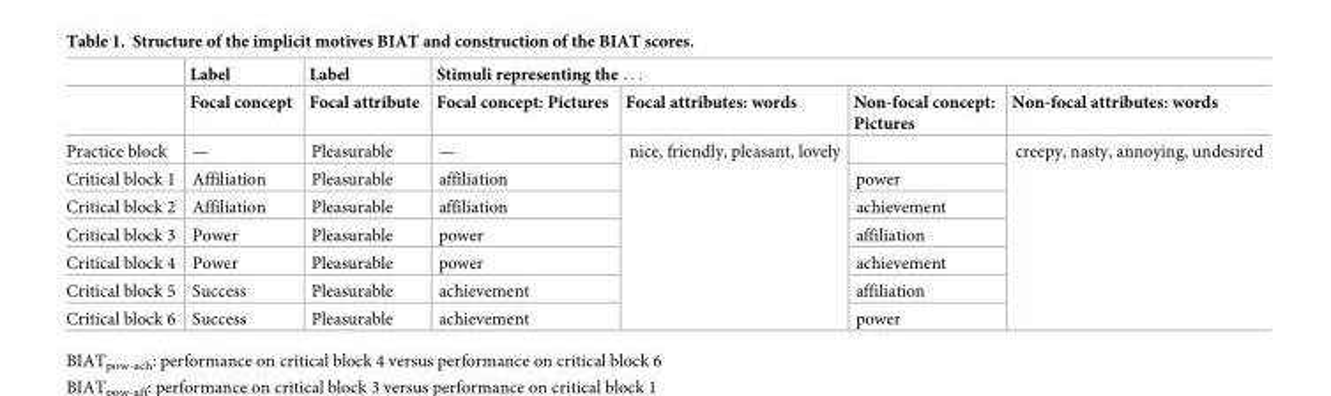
<table><thead><tr><td rowspan="2"></td><td rowspan="2">Label Focal concept</td><td rowspan="2">Label Focal attribute</td><td colspan="4">Stimuli representing the . . .</td></tr><tr><td>Focal concept: Pictures</td><td>Focal attributes: words</td><td>Non-focal concept: Pictures</td><td>Non-focal attributes: words</td></tr></thead><tbody><tr><td>Practice block</td><td>—</td><td>Pleasurable</td><td>—</td><td rowspan="7">nice, friendly, pleasant, lovely</td><td></td><td rowspan="7">creepy, nasty, annoying, undesired</td></tr><tr><td>Critical block 1</td><td>Affiliation</td><td>Pleasurable</td><td>affiliation</td><td>power</td></tr><tr><td>Critical block 2</td><td>Affiliation</td><td>Pleasurable</td><td>affiliation</td><td>achievement</td></tr><tr><td>Critical block 3</td><td>Power</td><td>Pleasurable</td><td>power</td><td>affiliation</td></tr><tr><td>Critical block 4</td><td>Power</td><td>Pleasurable</td><td>power</td><td>achievement</td></tr><tr><td>Critical block 5</td><td>Success</td><td>Pleasurable</td><td>achievement</td><td>affiliation</td></tr><tr><td>Critical block 6</td><td>Success</td><td>Pleasurable</td><td>achievement</td><td>power</td></tr></tbody></table>